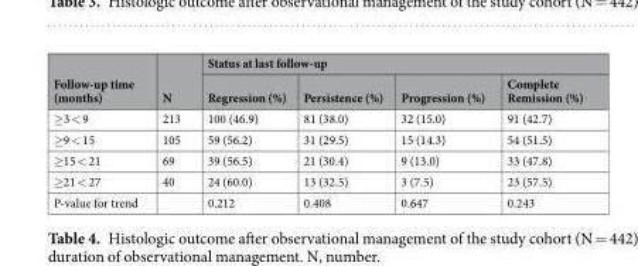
<table><thead><tr><td rowspan="2">Follow-up time (months)</td><td rowspan="2">N</td><td colspan="4">Status at last follow-up</td></tr><tr><td>Regression (%)</td><td>Persistence (%)</td><td>Progression (%)</td><td>Complete Remission (%)</td></tr></thead><tbody><tr><td>≥3 &lt; 9</td><td>213</td><td>100 (46.9)</td><td>81 (38.0)</td><td>32 (15.0)</td><td>91 (42.7)</td></tr><tr><td>≥9 &lt; 15</td><td>105</td><td>59 (56.2)</td><td>31 (29.5)</td><td>15 (14.3)</td><td>54 (51.5)</td></tr><tr><td>≥15 &lt; 21</td><td>69</td><td>39 (56.5)</td><td>21 (30.4)</td><td>9 (13.0)</td><td>33 (47.8)</td></tr><tr><td>≥21 &lt; 27</td><td>40</td><td>24 (60.0)</td><td>13 (32.5)</td><td>3 (7.5)</td><td>23 (57.5)</td></tr><tr><td>P-value for trend</td><td></td><td>0.212</td><td>0.408</td><td>0.647</td><td>0.243</td></tr></tbody></table>